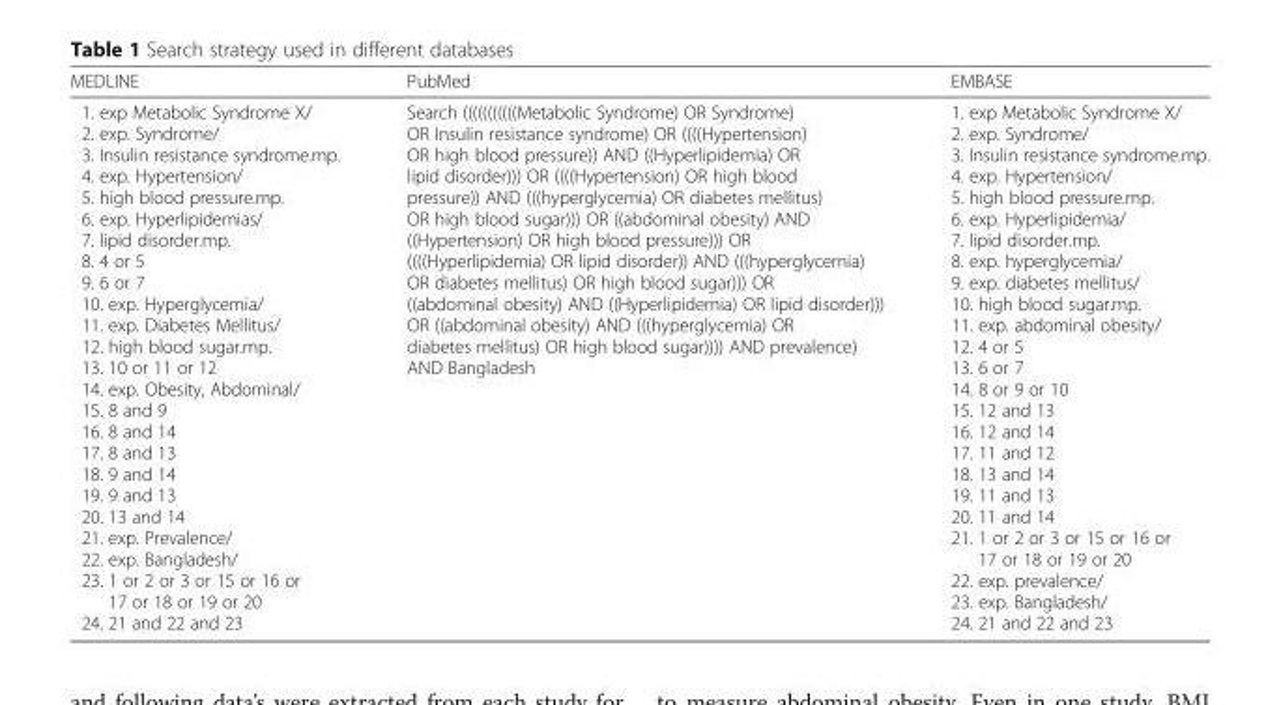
<table><thead><tr><td>MEDLINE</td><td>PubMed</td><td>EMBASE</td></tr></thead><tbody><tr><td>1. exp Metabolic Syndrome X/ 2. exp. Syndrome/ 3. Insulin resistance syndrome.mp. 4. exp. Hypertension/ 5. high blood pressure.mp. 6. exp. Hyperlipidemias/ 7. lipid disorder.mp. 8. 4 or 5 9. 6 or 7 10. exp. Hyperglycemia/ 11. exp. Diabetes Mellitus/ 12. high blood sugar.mp. 13. 10 or 11 or 12 14. exp. Obesity, Abdominal/ 15. 8 and 9 16. 8 and 14 17. 8 and 13 18. 9 and 14 19. 9 and 13 20. 13 and 14 21. exp. Prevalence/ 22. exp. Bangladesh/ 23. 1 or 2 or 3 or 15 or 16 or 17 or 18 or 19 or 20 24. 21 and 22 and 23</td><td>Search (((((((((((Metabolic Syndrome) OR Syndrome) OR Insulin resistance syndrome) OR ((((Hypertension) OR high blood pressure)) AND ((Hyperlipidemia) OR lipid disorder))) OR ((((Hypertension) OR high blood pressure)) AND (((hyperglycemia) OR diabetes mellitus) OR high blood sugar))) OR ((abdominal obesity) AND ((Hypertension) OR high blood pressure))) OR ((((Hyperlipidemia) OR lipid disorder)) AND (((hyperglycemia) OR diabetes mellitus) OR high blood sugar))) OR ((abdominal obesity) AND ((Hyperlipidemia) OR lipid disorder))) OR ((abdominal obesity) AND (((hyperglycemia) OR diabetes mellitus) OR high blood sugar)))) AND prevalence) AND Bangladesh</td><td>1. exp Metabolic Syndrome X/ 2. exp. Syndrome/ 3. Insulin resistance syndrome.mp. 4. exp. Hypertension/ 5. high blood pressure.mp. 6. exp. Hyperlipidemia/ 7. lipid disorder.mp. 8. exp. hyperglycemia/ 9. exp. diabetes mellitus/ 10. high blood sugar.mp. 11. exp. abdominal obesity/ 12. 4 or 5 13. 6 or 7 14. 8 or 9 or 10 15. 12 and 13 16. 12 and 14 17. 11 and 12 18. 13 and 14 19. 11 and 13 20. 11 and 14 21. 1 or 2 or 3 or 15 or 16 or 17 or 18 or 19 or 20 22. exp. prevalence/ 23. exp. Bangladesh/ 24. 21 and 22 and 23</td></tr></tbody></table>